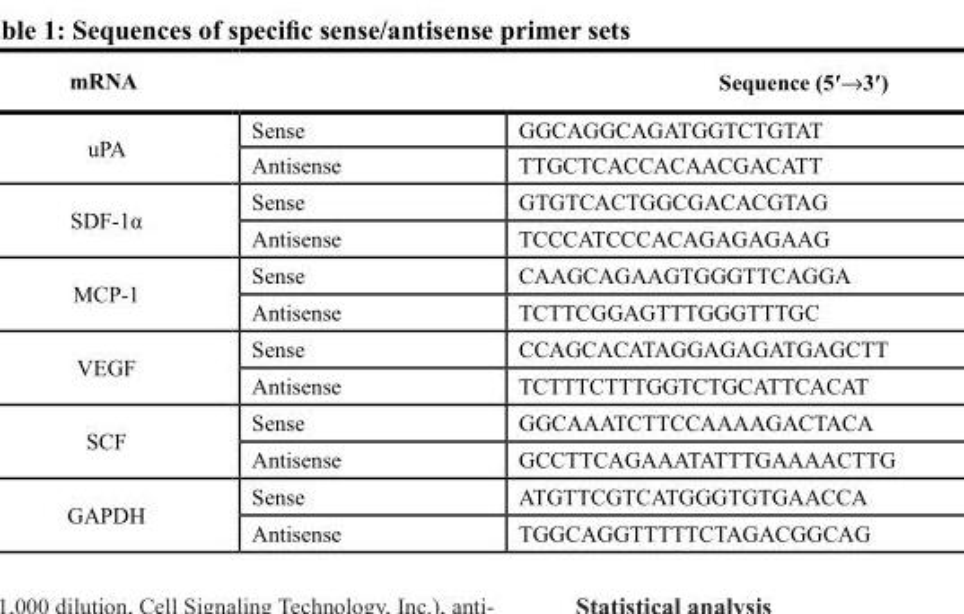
<table><thead><tr><td>mRNA</td><td></td><td>Sequence (5′→3′)</td></tr></thead><tbody><tr><td rowspan="2">uPA</td><td>Sense</td><td>GGCAGGCAGATGGTCTGTAT</td></tr><tr><td>Antisense</td><td>TTGCTCACCACAACGACATT</td></tr><tr><td rowspan="2">SDF-1α</td><td>Sense</td><td>GTGTCACTGGCGACACGTAG</td></tr><tr><td>Antisense</td><td>TCCCATCCCACAGAGAGAAG</td></tr><tr><td rowspan="2">MCP-1</td><td>Sense</td><td>CAAGCAGAAGTGGGTTCAGGA</td></tr><tr><td>Antisense</td><td>TCTTCGGAGTTTGGGTTTGC</td></tr><tr><td rowspan="2">VEGF</td><td>Sense</td><td>CCAGCACATAGGAGAGATGAGCTT</td></tr><tr><td>Antisense</td><td>TCTTTCTTTGGTCTGCATTCACAT</td></tr><tr><td rowspan="2">SCF</td><td>Sense</td><td>GGCAAATCTTCCAAAAGACTACA</td></tr><tr><td>Antisense</td><td>GCCTTCAGAAATATTTGAAAACTTG</td></tr><tr><td rowspan="2">GAPDH</td><td>Sense</td><td>ATGTTCGTCATGGGTGTGAACCA</td></tr><tr><td>Antisense</td><td>TGGCAGGTTTTTCTAGACGGCAG</td></tr></tbody></table>